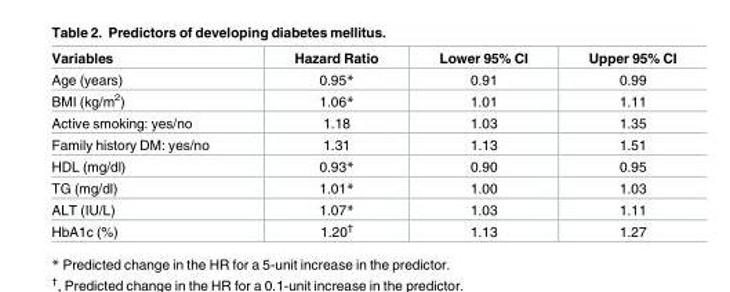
<table><thead><tr><td>Variables</td><td>Hazard Ratio</td><td>Lower 95% CI</td><td>Upper 95% CI</td></tr></thead><tbody><tr><td>Age (years)</td><td>0.95*</td><td>0.91</td><td>0.99</td></tr><tr><td>BMI (kg/m<sup>2</sup>)</td><td>1.06*</td><td>1.01</td><td>1.11</td></tr><tr><td>Active smoking: yes/no</td><td>1.18</td><td>1.03</td><td>1.35</td></tr><tr><td>Family history DM: yes/no</td><td>1.31</td><td>1.13</td><td>1.51</td></tr><tr><td>HDL (mg/dl)</td><td>0.93*</td><td>0.90</td><td>0.95</td></tr><tr><td>TG (mg/dl)</td><td>1.01*</td><td>1.00</td><td>1.03</td></tr><tr><td>ALT (IU/L)</td><td>1.07*</td><td>1.03</td><td>1.11</td></tr><tr><td>HbA1c (%)</td><td>1.20<sup>†</sup></td><td>1.13</td><td>1.27</td></tr></tbody></table>